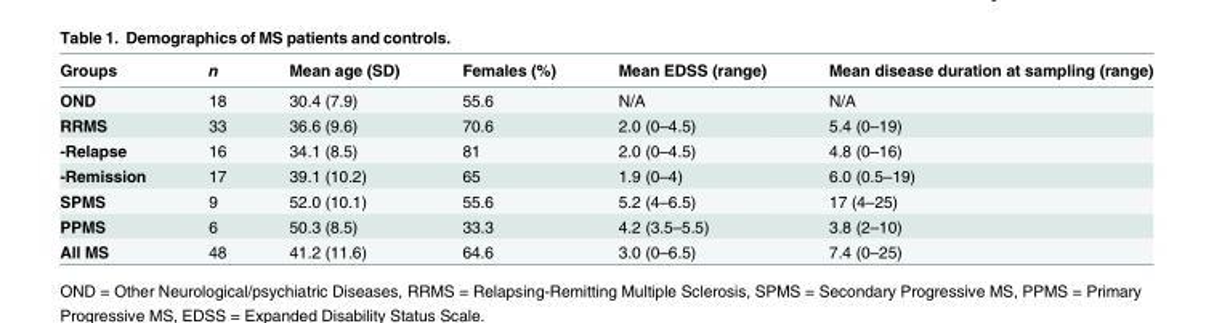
<table><thead><tr><td>Groups</td><td>n</td><td>Mean age (SD)</td><td>Females (%)</td><td>Mean EDSS (range)</td><td>Mean disease duration at sampling (range)</td></tr></thead><tbody><tr><td>OND</td><td>18</td><td>30.4 (7.9)</td><td>55.6</td><td>N/A</td><td>N/A</td></tr><tr><td>RRMS</td><td>33</td><td>36.6 (9.6)</td><td>70.6</td><td>2.0 (0–4.5)</td><td>5.4 (0–19)</td></tr><tr><td>-Relapse</td><td>16</td><td>34.1 (8.5)</td><td>81</td><td>2.0 (0–4.5)</td><td>4.8 (0–16)</td></tr><tr><td>-Remission</td><td>17</td><td>39.1 (10.2)</td><td>65</td><td>1.9 (0–4)</td><td>6.0 (0.5–19)</td></tr><tr><td>SPMS</td><td>9</td><td>52.0 (10.1)</td><td>55.6</td><td>5.2 (4–6.5)</td><td>17 (4–25)</td></tr><tr><td>PPMS</td><td>6</td><td>50.3 (8.5)</td><td>33.3</td><td>4.2 (3.5–5.5)</td><td>3.8 (2–10)</td></tr><tr><td>All MS</td><td>48</td><td>41.2 (11.6)</td><td>64.6</td><td>3.0 (0–6.5)</td><td>7.4 (0–25)</td></tr></tbody></table>